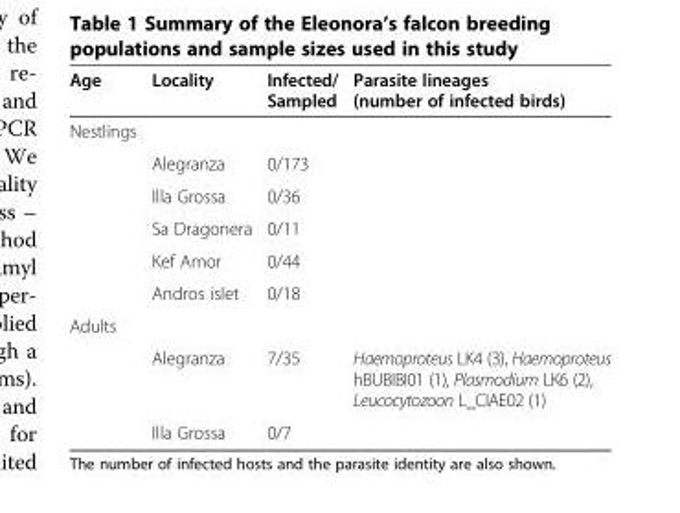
<table><thead><tr><td>Age</td><td>Locality</td><td>Infected/ Sampled</td><td>Parasite lineages (number of infected birds)</td></tr></thead><tbody><tr><td colspan="4">Nestlings</td></tr><tr><td></td><td>Alegranza</td><td>0/173</td><td></td></tr><tr><td></td><td>Illa Grossa</td><td>0/36</td><td></td></tr><tr><td></td><td>Sa Dragonera</td><td>0/11</td><td></td></tr><tr><td></td><td>Kef Amor</td><td>0/44</td><td></td></tr><tr><td></td><td>Andros islet</td><td>0/18</td><td></td></tr><tr><td colspan="4">Adults</td></tr><tr><td></td><td>Alegranza</td><td>7/35</td><td>Haemoproteus LK4 (3), Haemoproteus hBUBIBI01 (1), Plasmodium LK6 (2), Leucocytozoon L_CIAE02 (1)</td></tr><tr><td></td><td>Illa Grossa</td><td>0/7</td><td></td></tr></tbody></table>